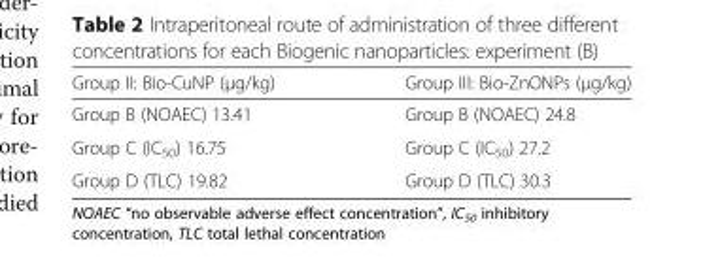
<table><thead><tr><td>Group II: Bio-CuNP (μg/kg)</td><td>Group III: Bio-ZnONPs (μg/kg)</td></tr></thead><tbody><tr><td>Group B (NOAEC) 13.41</td><td>Group B (NOAEC) 24.8</td></tr><tr><td>Group C (IC<sub>50</sub>) 16.75</td><td>Group C (IC<sub>50</sub>) 27.2</td></tr><tr><td>Group D (TLC) 19.82</td><td>Group D (TLC) 30.3</td></tr></tbody></table>